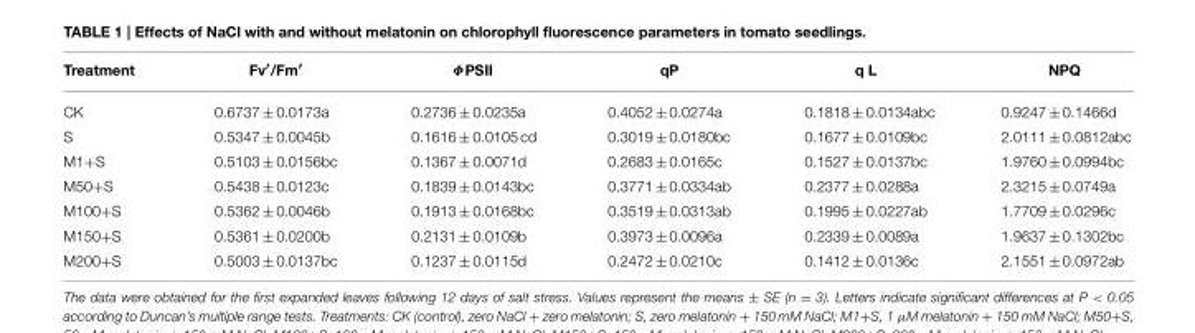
<table><thead><tr><td>Treatment</td><td>Fv′/Fm′</td><td>ΦPSII</td><td>qP</td><td>q L</td><td>NPQ</td></tr></thead><tbody><tr><td>CK</td><td>0.6737 ± 0.0173a</td><td>0.2736 ± 0.0235a</td><td>0.4052 ± 0.0274a</td><td>0.1818 ± 0.0134abc</td><td>0.9247 ± 0.1466d</td></tr><tr><td>S</td><td>0.5347 ± 0.0045b</td><td>0.1616 ± 0.0105 cd</td><td>0.3019 ± 0.0180bc</td><td>0.1677 ± 0.0109bc</td><td>2.0111 ± 0.0812abc</td></tr><tr><td>M1+S</td><td>0.5103 ± 0.0156bc</td><td>0.1367 ± 0.0071d</td><td>0.2683 ± 0.0165c</td><td>0.1527 ± 0.0137bc</td><td>1.9760 ± 0.0994bc</td></tr><tr><td>M50+S</td><td>0.5438 ± 0.0123c</td><td>0.1839 ± 0.0143bc</td><td>0.3771 ± 0.0334ab</td><td>0.2377 ± 0.0288a</td><td>2.3215 ± 0.0749a</td></tr><tr><td>M100+S</td><td>0.5362 ± 0.0046b</td><td>0.1913 ± 0.0168bc</td><td>0.3519 ± 0.0313ab</td><td>0.1995 ± 0.0227ab</td><td>1.7709 ± 0.0296c</td></tr><tr><td>M150+S</td><td>0.5361 ± 0.0200b</td><td>0.2131 ± 0.0109b</td><td>0.3973 ± 0.0096a</td><td>0.2339 ± 0.0089a</td><td>1.9637 ± 0.1302bc</td></tr><tr><td>M200+S</td><td>0.5003 ± 0.0137bc</td><td>0.1237 ± 0.0115d</td><td>0.2472 ± 0.0210c</td><td>0.1412 ± 0.0136c</td><td>2.1551 ± 0.0972ab</td></tr></tbody></table>